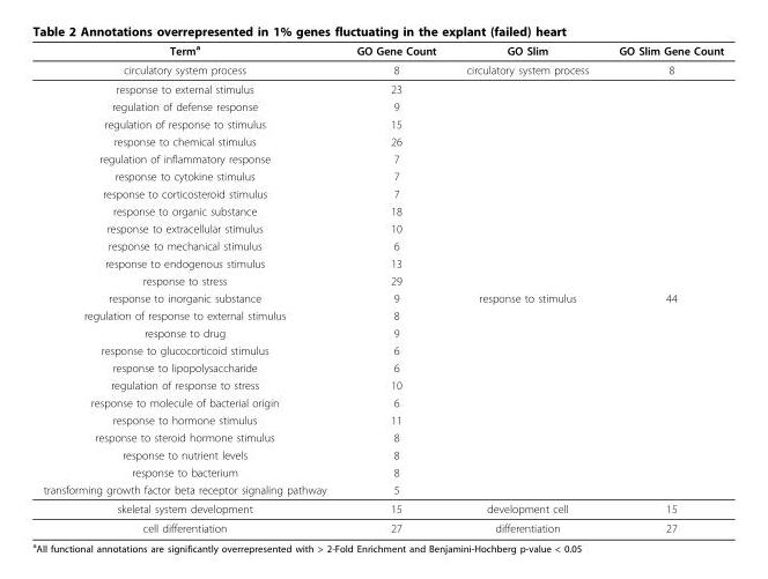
<table><thead><tr><td>Term<sup>a</sup></td><td>GO Gene Count</td><td>GO Slim</td><td>GO Slim Gene Count</td></tr></thead><tbody><tr><td>circulatory system process</td><td>8</td><td>circulatory system process</td><td>8</td></tr><tr><td>response to external stimulus</td><td>23</td><td></td><td></td></tr><tr><td>regulation of defense response</td><td>9</td><td></td><td></td></tr><tr><td>regulation of response to stimulus</td><td>15</td><td></td><td></td></tr><tr><td>response to chemical stimulus</td><td>26</td><td></td><td></td></tr><tr><td>regulation of inflammatory response</td><td>7</td><td></td><td></td></tr><tr><td>response to cytokine stimulus</td><td>7</td><td></td><td></td></tr><tr><td>response to corticosteroid stimulus</td><td>7</td><td></td><td></td></tr><tr><td>response to organic substance</td><td>18</td><td></td><td></td></tr><tr><td>response to extracellular stimulus</td><td>10</td><td></td><td></td></tr><tr><td>response to mechanical stimulus</td><td>6</td><td></td><td></td></tr><tr><td>response to endogenous stimulus</td><td>13</td><td></td><td></td></tr><tr><td>response to stress</td><td>29</td><td></td><td></td></tr><tr><td>response to inorganic substance</td><td>9</td><td>response to stimulus</td><td>44</td></tr><tr><td>regulation of response to external stimulus</td><td>8</td><td></td><td></td></tr><tr><td>response to drug</td><td>9</td><td></td><td></td></tr><tr><td>response to glucocorticoid stimulus</td><td>6</td><td></td><td></td></tr><tr><td>response to lipopolysaccharide</td><td>6</td><td></td><td></td></tr><tr><td>regulation of response to stress</td><td>10</td><td></td><td></td></tr><tr><td>response to molecule of bacterial origin</td><td>6</td><td></td><td></td></tr><tr><td>response to hormone stimulus</td><td>11</td><td></td><td></td></tr><tr><td>response to steroid hormone stimulus</td><td>8</td><td></td><td></td></tr><tr><td>response to nutrient levels</td><td>8</td><td></td><td></td></tr><tr><td>response to bacterium</td><td>8</td><td></td><td></td></tr><tr><td>transforming growth factor beta receptor signaling pathway</td><td>5</td><td></td><td></td></tr><tr><td>skeletal system development</td><td>15</td><td>development cell</td><td>15</td></tr><tr><td>cell differentiation</td><td>27</td><td>differentiation</td><td>27</td></tr></tbody></table>